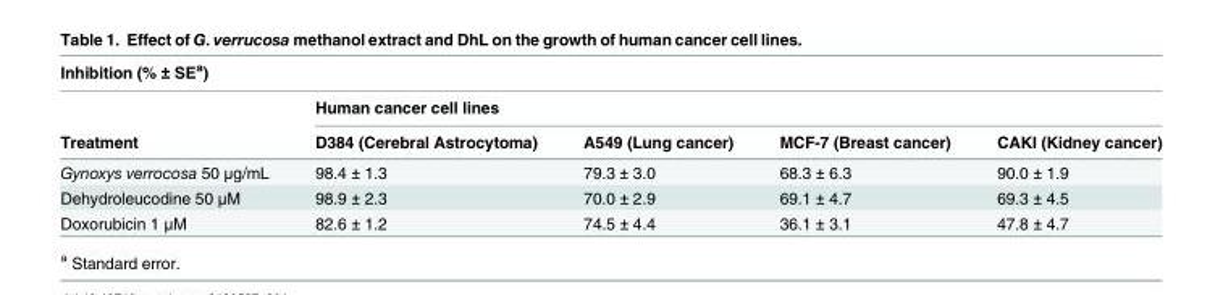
<table><thead><tr><td colspan="5">Inhibition (% ± SE<sup>a</sup>)</td></tr><tr><td rowspan="2">Treatment</td><td colspan="4">Human cancer cell lines</td></tr><tr><td>D384 (Cerebral Astrocytoma)</td><td>A549 (Lung cancer)</td><td>MCF-7 (Breast cancer)</td><td>CAKI (Kidney cancer)</td></tr></thead><tbody><tr><td>Gynoxys verrocosa 50 μg/mL</td><td>98.4 ± 1.3</td><td>79.3 ± 3.0</td><td>68.3 ± 6.3</td><td>90.0 ± 1.9</td></tr><tr><td>Dehydroleucodine 50 μM</td><td>98.9 ± 2.3</td><td>70.0 ± 2.9</td><td>69.1 ± 4.7</td><td>69.3 ± 4.5</td></tr><tr><td>Doxorubicin 1 μM</td><td>82.6 ± 1.2</td><td>74.5 ± 4.4</td><td>36.1 ± 3.1</td><td>47.8 ± 4.7</td></tr></tbody></table>